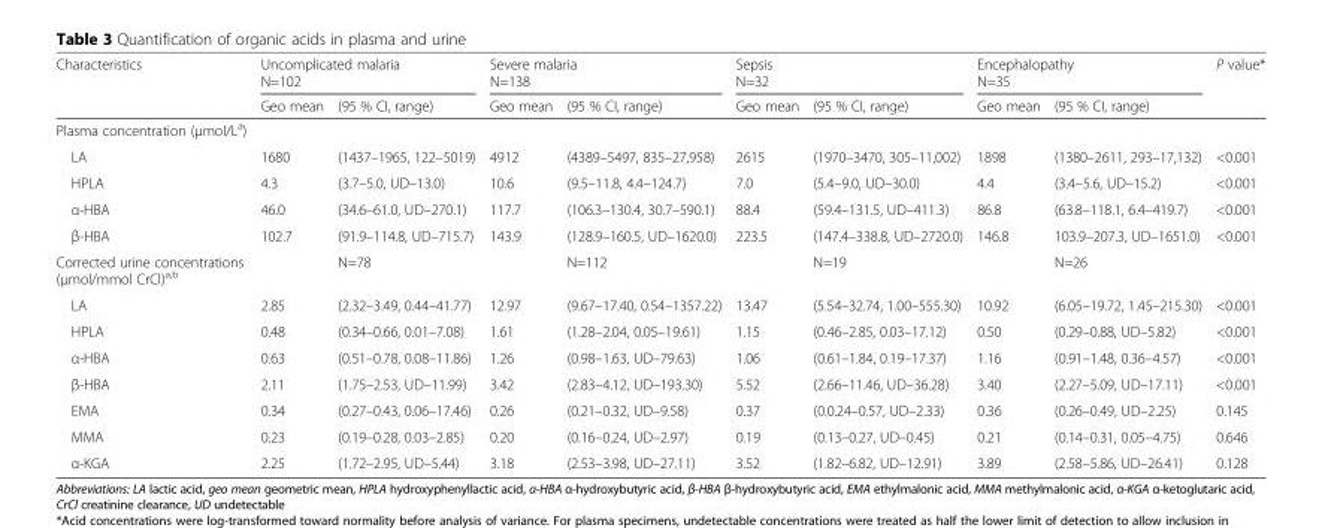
<table><thead><tr><td rowspan="2">Characteristics</td><td colspan="2">Uncomplicated malaria N=102</td><td colspan="2">Severe malaria N=138</td><td colspan="2">Sepsis N=32</td><td colspan="2">Encephalopathy N=35</td><td rowspan="2">P value*</td></tr><tr><td>Geo mean</td><td>(95 % CI, range)</td><td>Geo mean</td><td>(95 % CI, range)</td><td>Geo mean</td><td>(95 % CI, range)</td><td>Geo mean</td><td>(95 % CI, range)</td></tr></thead><tbody><tr><td colspan="10">Plasma concentration (μmol/L<sup>a</sup>)</td></tr><tr><td>LA</td><td>1680</td><td>(1437–1965, 122–5019)</td><td>4912</td><td>(4389–5497, 835–27,958)</td><td>2615</td><td>(1970–3470, 305–11,002)</td><td>1898</td><td>(1380–2611, 293–17,132)</td><td>&lt;0.001</td></tr><tr><td>HPLA</td><td>4.3</td><td>(3.7–5.0, UD–13.0)</td><td>10.6</td><td>(9.5–11.8, 4.4–124.7)</td><td>7.0</td><td>(5.4–9.0, UD–30.0)</td><td>4.4</td><td>(3.4–5.6, UD–15.2)</td><td>&lt;0.001</td></tr><tr><td>α-HBA</td><td>46.0</td><td>(34.6–61.0, UD–270.1)</td><td>117.7</td><td>(106.3–130.4, 30.7–590.1)</td><td>88.4</td><td>(59.4–131.5, UD–411.3)</td><td>86.8</td><td>(63.8–118.1, 6.4–419.7)</td><td>&lt;0.001</td></tr><tr><td>β-HBA</td><td>102.7</td><td>(91.9–114.8, UD–715.7)</td><td>143.9</td><td>(128.9–160.5, UD–1620.0)</td><td>223.5</td><td>(147.4–338.8, UD–2720.0)</td><td>146.8</td><td>103.9–207.3, UD–1651.0)</td><td>&lt;0.001</td></tr><tr><td>Corrected urine concentrations (μmol/mmol CrCl)<sup>a,b</sup></td><td></td><td>N=78</td><td></td><td>N=112</td><td></td><td>N=19</td><td></td><td>N=26</td><td></td></tr><tr><td>LA</td><td>2.85</td><td>(2.32–3.49, 0.44–41.77)</td><td>12.97</td><td>(9.67–17.40, 0.54–1357.22)</td><td>13.47</td><td>(5.54–32.74, 1.00–555.30)</td><td>10.92</td><td>(6.05–19.72, 1.45–215.30)</td><td>&lt;0.001</td></tr><tr><td>HPLA</td><td>0.48</td><td>(0.34–0.66, 0.01–7.08)</td><td>1.61</td><td>(1.28–2.04, 0.05–19.61)</td><td>1.15</td><td>(0.46–2.85, 0.03–17.12)</td><td>0.50</td><td>(0.29–0.88, UD–5.82)</td><td>&lt;0.001</td></tr><tr><td>α-HBA</td><td>0.63</td><td>(0.51–0.78, 0.08–11.86)</td><td>1.26</td><td>(0.98–1.63, UD–79.63)</td><td>1.06</td><td>(0.61–1.84, 0.19–17.37)</td><td>1.16</td><td>(0.91–1.48, 0.36–4.57)</td><td>&lt;0.001</td></tr><tr><td>β-HBA</td><td>2.11</td><td>(1.75–2.53, UD–11.99)</td><td>3.42</td><td>(2.83–4.12, UD–193.30)</td><td>5.52</td><td>(2.66–11.46, UD–36.28)</td><td>3.40</td><td>(2.27–5.09, UD–17.11)</td><td>&lt;0.001</td></tr><tr><td>EMA</td><td>0.34</td><td>(0.27–0.43, 0.06–17.46)</td><td>0.26</td><td>(0.21–0.32, UD–9.58)</td><td>0.37</td><td>(0.0.24–0.57, UD–2.33)</td><td>0.36</td><td>(0.26–0.49, UD–2.25)</td><td>0.145</td></tr><tr><td>MMA</td><td>0.23</td><td>(0.19–0.28, 0.03–2.85)</td><td>0.20</td><td>(0.16–0.24, UD–2.97)</td><td>0.19</td><td>(0.13–0.27, UD–0.45)</td><td>0.21</td><td>(0.14–0.31, 0.05–4.75)</td><td>0.646</td></tr><tr><td>α-KGA</td><td>2.25</td><td>(1.72–2.95, UD–5.44)</td><td>3.18</td><td>(2.53–3.98, UD–27.11)</td><td>3.52</td><td>(1.82–6.82, UD–12.91)</td><td>3.89</td><td>(2.58–5.86, UD–26.41)</td><td>0.128</td></tr></tbody></table>